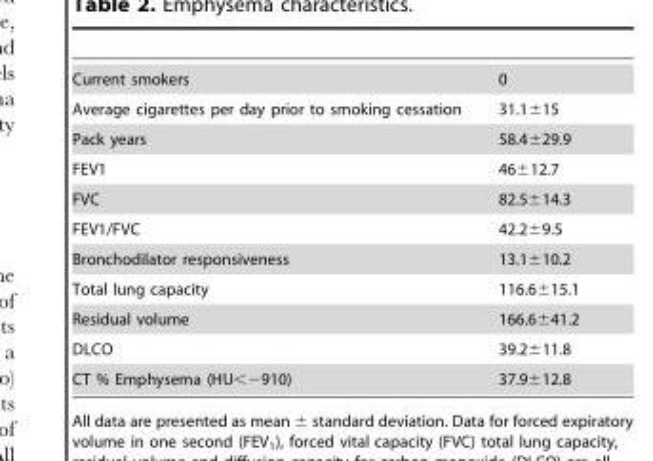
<table><tbody><tr><td>Current smokers</td><td>0</td></tr><tr><td>Average cigarettes per day prior to smoking cessation</td><td>31.1±15</td></tr><tr><td>Pack years</td><td>58.4±29.9</td></tr><tr><td>FEV1</td><td>46±12.7</td></tr><tr><td>FVC</td><td>82.5±14.3</td></tr><tr><td>FEV1/FVC</td><td>42.2±9.5</td></tr><tr><td>Bronchodilator responsiveness</td><td>13.1±10.2</td></tr><tr><td>Total lung capacity</td><td>116.6±15.1</td></tr><tr><td>Residual volume</td><td>166.6±41.2</td></tr><tr><td>DLCO</td><td>39.2±11.8</td></tr><tr><td>CT % Emphysema (HU&lt;−910)</td><td>37.9±12.8</td></tr></tbody></table>